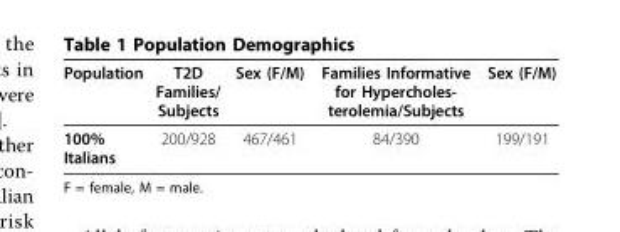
<table><thead><tr><td>Population</td><td>T2D Families/ Subjects</td><td>Sex (F/M)</td><td>Families Informative for Hypercholes- terolemia/Subjects</td><td>Sex (F/M)</td></tr></thead><tbody><tr><td>100% Italians</td><td>200/928</td><td>467/461</td><td>84/390</td><td>199/191</td></tr></tbody></table>